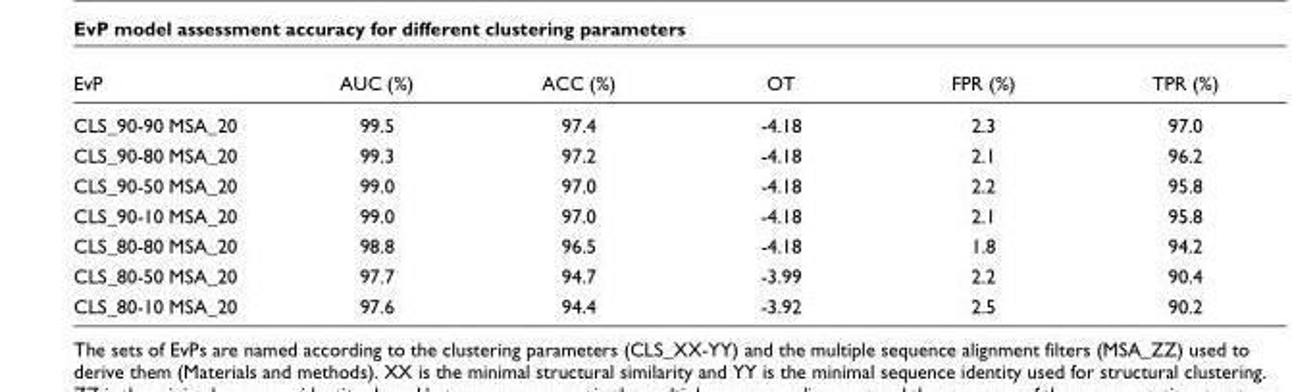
<table><thead><tr><td>EvP</td><td>AUC (%)</td><td>ACC (%)</td><td>OT</td><td>FPR (%)</td><td>TPR (%)</td></tr></thead><tbody><tr><td>CLS_90-90 MSA_20</td><td>99.5</td><td>97.4</td><td>-4.18</td><td>2.3</td><td>97.0</td></tr><tr><td>CLS_90-80 MSA_20</td><td>99.3</td><td>97.2</td><td>-4.18</td><td>2.1</td><td>96.2</td></tr><tr><td>CLS_90-50 MSA_20</td><td>99.0</td><td>97.0</td><td>-4.18</td><td>2.2</td><td>95.8</td></tr><tr><td>CLS_90-10 MSA_20</td><td>99.0</td><td>97.0</td><td>-4.18</td><td>2.1</td><td>95.8</td></tr><tr><td>CLS_80-80 MSA_20</td><td>98.8</td><td>96.5</td><td>-4.18</td><td>1.8</td><td>94.2</td></tr><tr><td>CLS_80-50 MSA_20</td><td>97.7</td><td>94.7</td><td>-3.99</td><td>2.2</td><td>90.4</td></tr><tr><td>CLS_80-10 MSA_20</td><td>97.6</td><td>94.4</td><td>-3.92</td><td>2.5</td><td>90.2</td></tr></tbody></table>